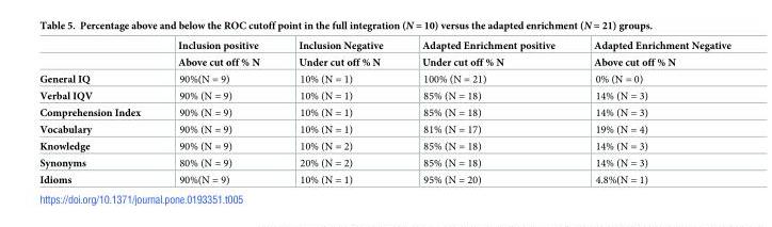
<table><thead><tr><td rowspan="2"></td><td rowspan="2">Inclusion positive Above cut off % N</td><td rowspan="2">Inclusion Negative Under cut off % N</td><td rowspan="2">Adapted Enrichment positive Under cut off % N</td><td rowspan="2">Adapted Enrichment Negative Above cut off % N</td></tr><tr></tr></thead><tbody><tr><td>General IQ</td><td>90%(N = 9)</td><td>10% (N = 1)</td><td>100% (N = 21)</td><td>0% (N = 0)</td></tr><tr><td>Verbal IQV</td><td>90% (N = 9)</td><td>10% (N = 1)</td><td>85% (N = 18)</td><td>14% (N = 3)</td></tr><tr><td>Comprehension Index</td><td>90% (N = 9)</td><td>10% (N = 1)</td><td>85% (N = 18)</td><td>14% (N = 3)</td></tr><tr><td>Vocabulary</td><td>90% (N = 9)</td><td>10% (N = 1)</td><td>81% (N = 17)</td><td>19% (N = 4)</td></tr><tr><td>Knowledge</td><td>90% (N = 9)</td><td>10% (N = 2)</td><td>85% (N = 18)</td><td>14% (N = 3)</td></tr><tr><td>Synonyms</td><td>80% (N = 9)</td><td>20% (N = 2)</td><td>85% (N = 18)</td><td>14% (N = 3)</td></tr><tr><td>Idioms</td><td>90%(N = 9)</td><td>10% (N = 1)</td><td>95% (N = 20)</td><td>4.8%(N = 1)</td></tr></tbody></table>